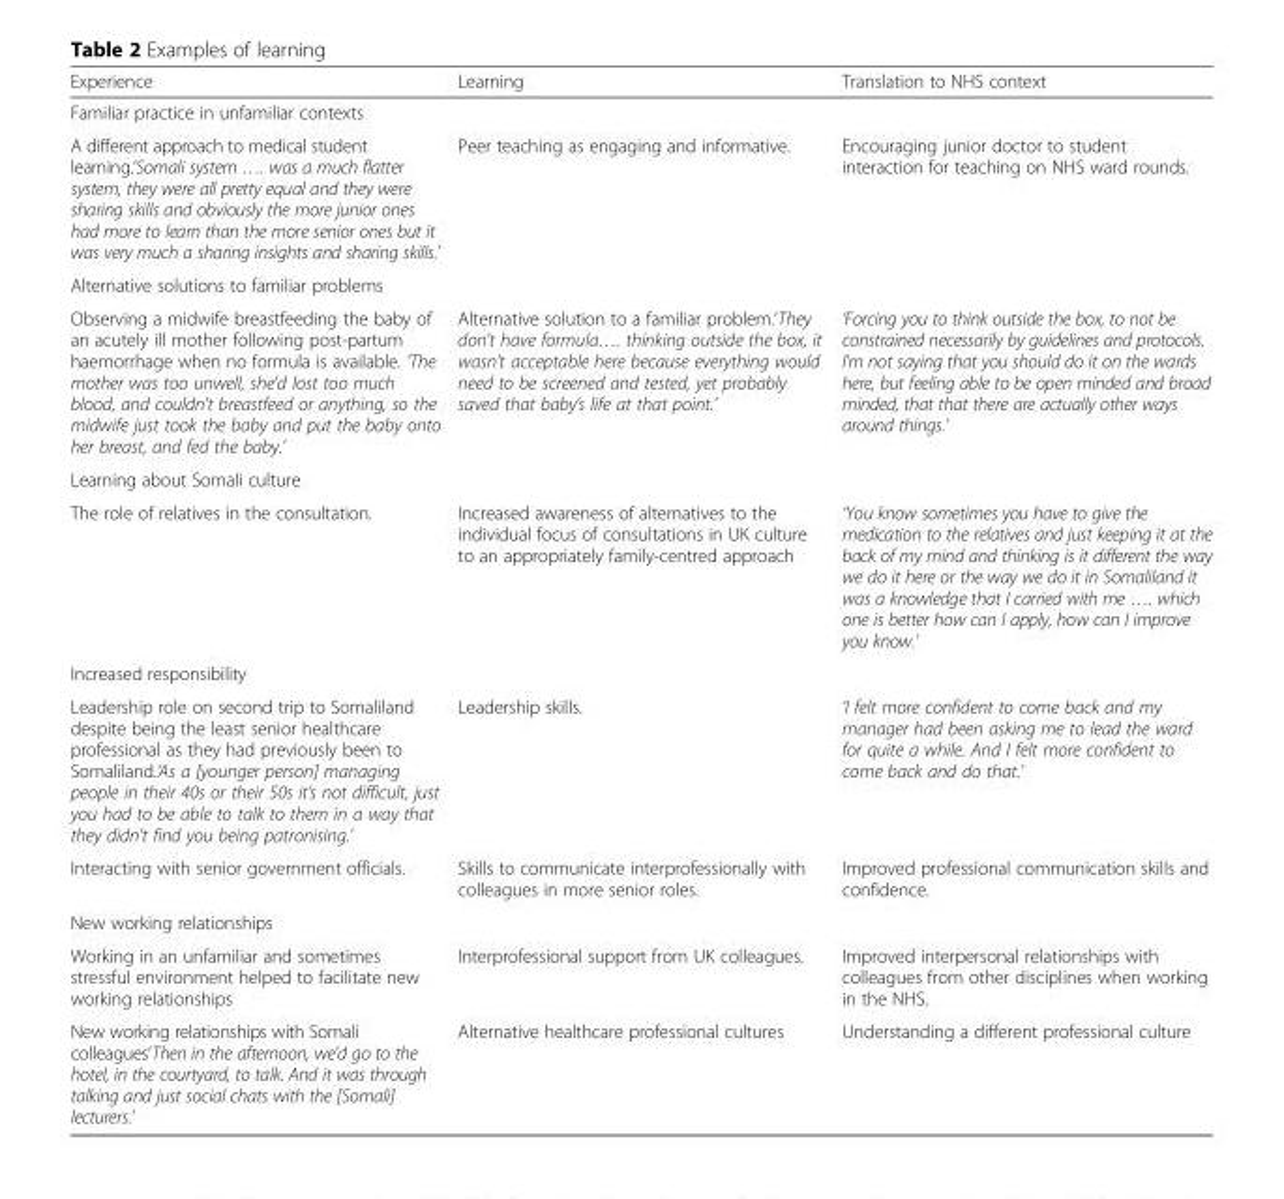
<table><thead><tr><td>Experience</td><td>Learning</td><td>Translation to NHS context</td></tr></thead><tbody><tr><td colspan="3">Familiar practice in unfamiliar contexts</td></tr><tr><td>A different approach to medical student learning.‘Somali system …. was a much flatter system, they were all pretty equal and they were sharing skills and obviously the more junior ones had more to learn than the more senior ones but it was very much a sharing insights and sharing skills.’</td><td>Peer teaching as engaging and informative.</td><td>Encouraging junior doctor to student interaction for teaching on NHS ward rounds.</td></tr><tr><td colspan="3">Alternative solutions to familiar problems</td></tr><tr><td>Observing a midwife breastfeeding the baby of an acutely ill mother following post-partum haemorrhage when no formula is available. ‘The mother was too unwell, she&#x27;d lost too much blood, and couldn&#x27;t breastfeed or anything, so the midwife just took the baby and put the baby onto her breast, and fed the baby.’</td><td>Alternative solution to a familiar problem.‘They don’t have formula…. thinking outside the box, it wasn’t acceptable here because everything would need to be screened and tested, yet probably saved that baby’s life at that point.’</td><td>‘Forcing you to think outside the box, to not be constrained necessarily by guidelines and protocols. I’m not saying that you should do it on the wards here, but feeling able to be open minded and broad minded, that that there are actually other ways around things.’</td></tr><tr><td colspan="3">Learning about Somali culture</td></tr><tr><td>The role of relatives in the consultation.</td><td>Increased awareness of alternatives to the individual focus of consultations in UK culture to an appropriately family-centred approach</td><td>‘You know sometimes you have to give the medication to the relatives and just keeping it at the back of my mind and thinking is it different the way we do it here or the way we do it in Somaliland it was a knowledge that I carried with me …. which one is better how can I apply, how can I improve you know.’</td></tr><tr><td colspan="3">Increased responsibility</td></tr><tr><td>Leadership role on second trip to Somaliland despite being the least senior healthcare professional as they had previously been to Somaliland.‘As a [younger person] managing people in their 40s or their 50s it’s not difficult, just you had to be able to talk to them in a way that they didn’t find you being patronising.’</td><td>Leadership skills.</td><td>‘I felt more confident to come back and my manager had been asking me to lead the ward for quite a while. And I felt more confident to come back and do that.’</td></tr><tr><td>Interacting with senior government officials.</td><td>Skills to communicate interprofessionally with colleagues in more senior roles.</td><td>Improved professional communication skills and confidence.</td></tr><tr><td colspan="3">New working relationships</td></tr><tr><td>Working in an unfamiliar and sometimes stressful environment helped to facilitate new working relationships</td><td>Interprofessional support from UK colleagues.</td><td>Improved interpersonal relationships with colleagues from other disciplines when working in the NHS.</td></tr><tr><td>New working relationships with Somali colleagues‘Then in the afternoon, we’d go to the hotel, in the courtyard, to talk. And it was through talking and just social chats with the [Somali] lecturers.’</td><td>Alternative healthcare professional cultures</td><td>Understanding a different professional culture</td></tr></tbody></table>